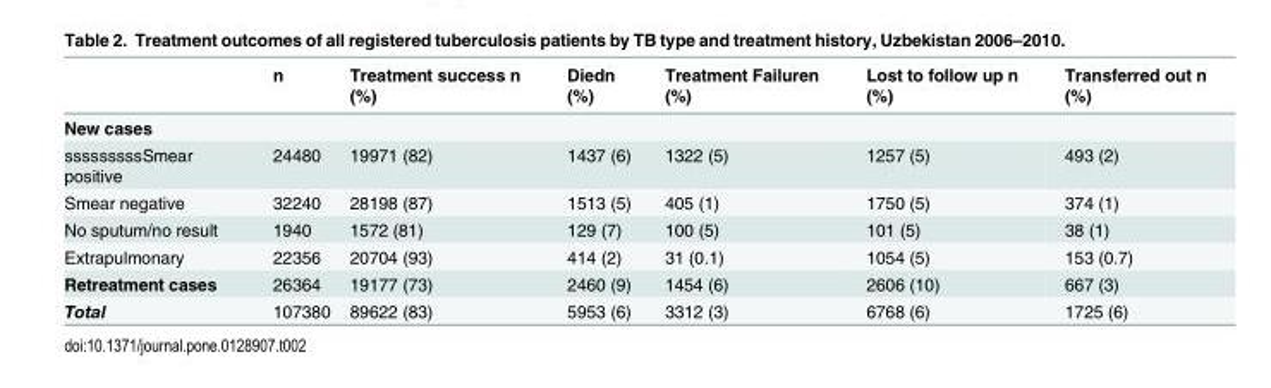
<table><thead><tr><td></td><td>n</td><td>Treatment success n (%)</td><td>Diedn (%)</td><td>Treatment Failuren (%)</td><td>Lost to follow up n (%)</td><td>Transferred out n (%)</td></tr></thead><tbody><tr><td colspan="7">New cases</td></tr><tr><td>sssssssssSmear positive</td><td>24480</td><td>19971 (82)</td><td>1437 (6)</td><td>1322 (5)</td><td>1257 (5)</td><td>493 (2)</td></tr><tr><td>Smear negative</td><td>32240</td><td>28198 (87)</td><td>1513 (5)</td><td>405 (1)</td><td>1750 (5)</td><td>374 (1)</td></tr><tr><td>No sputum/no result</td><td>1940</td><td>1572 (81)</td><td>129 (7)</td><td>100 (5)</td><td>101 (5)</td><td>38 (1)</td></tr><tr><td>Extrapulmonary</td><td>22356</td><td>20704 (93)</td><td>414 (2)</td><td>31 (0.1)</td><td>1054 (5)</td><td>153 (0.7)</td></tr><tr><td>Retreatment cases</td><td>26364</td><td>19177 (73)</td><td>2460 (9)</td><td>1454 (6)</td><td>2606 (10)</td><td>667 (3)</td></tr><tr><td>Total</td><td>107380</td><td>89622 (83)</td><td>5953 (6)</td><td>3312 (3)</td><td>6768 (6)</td><td>1725 (6)</td></tr></tbody></table>